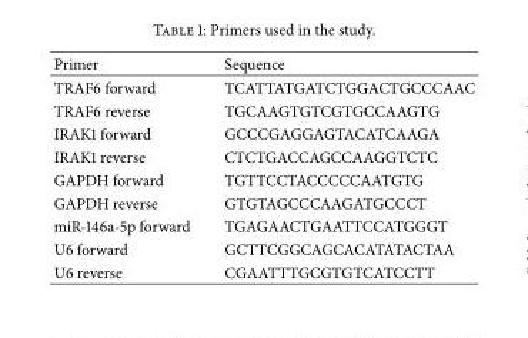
<table><thead><tr><td>Primer</td><td>Sequence</td></tr></thead><tbody><tr><td>TRAF6 forward</td><td>TCATTATGATCTGGACTGCCCAAC</td></tr><tr><td>TRAF6 reverse</td><td>TGCAAGTGTCGTGCCAAGTG</td></tr><tr><td>IRAK1 forward</td><td>GCCCGAGGAGTACATCAAGA</td></tr><tr><td>IRAK1 reverse</td><td>CTCTGACCAGCCAAGGTCTC</td></tr><tr><td>GAPDH forward</td><td>TGTTCCTACCCCCAATGTG</td></tr><tr><td>GAPDH reverse</td><td>GTGTAGCCCAAGATGCCCT</td></tr><tr><td>miR-146a-5p forward</td><td>TGAGAACTGAATTCCATGGGT</td></tr><tr><td>U6 forward</td><td>GCTTCGGCAGCACATATACTAA</td></tr><tr><td>U6 reverse</td><td>CGAATTTGCGTGTCATCCTT</td></tr></tbody></table>